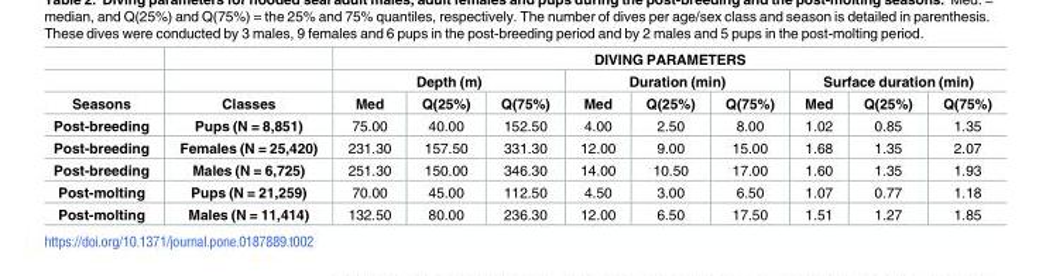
<table><thead><tr><td rowspan="3">Seasons</td><td rowspan="3">Classes</td><td colspan="9">DIVING PARAMETERS</td></tr><tr><td colspan="3">Depth (m)</td><td colspan="3">Duration (min)</td><td colspan="3">Surface duration (min)</td></tr><tr><td>Med</td><td>Q(25%)</td><td>Q(75%)</td><td>Med</td><td>Q(25%)</td><td>Q(75%)</td><td>Med</td><td>Q(25%)</td><td>Q(75%)</td></tr></thead><tbody><tr><td>Post-breeding</td><td>Pups (N = 8,851)</td><td>75.00</td><td>40.00</td><td>152.50</td><td>4.00</td><td>2.50</td><td>8.00</td><td>1.02</td><td>0.85</td><td>1.35</td></tr><tr><td>Post-breeding</td><td>Females (N = 25,420)</td><td>231.30</td><td>157.50</td><td>331.30</td><td>12.00</td><td>9.00</td><td>15.00</td><td>1.68</td><td>1.35</td><td>2.07</td></tr><tr><td>Post-breeding</td><td>Males (N = 6,725)</td><td>251.30</td><td>150.00</td><td>346.30</td><td>14.00</td><td>10.50</td><td>17.00</td><td>1.60</td><td>1.35</td><td>1.93</td></tr><tr><td>Post-molting</td><td>Pups (N = 21,259)</td><td>70.00</td><td>45.00</td><td>112.50</td><td>4.50</td><td>3.00</td><td>6.50</td><td>1.07</td><td>0.77</td><td>1.18</td></tr><tr><td>Post-molting</td><td>Males (N = 11,414)</td><td>132.50</td><td>80.00</td><td>236.30</td><td>12.00</td><td>6.50</td><td>17.50</td><td>1.51</td><td>1.27</td><td>1.85</td></tr></tbody></table>